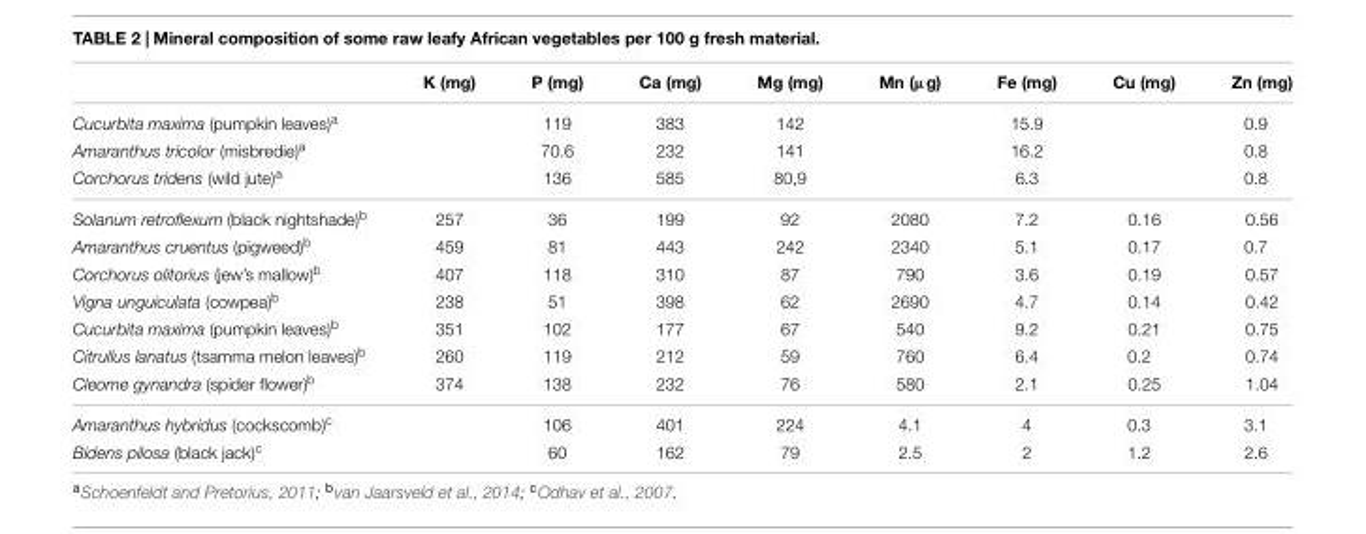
<table><thead><tr><td></td><td>K (mg)</td><td>P (mg)</td><td>Ca (mg)</td><td>Mg (mg)</td><td>Mn (µg)</td><td>Fe (mg)</td><td>Cu (mg)</td><td>Zn (mg)</td></tr></thead><tbody><tr><td>Cucurbita maxima (pumpkin leaves)<sup>a</sup></td><td></td><td>119</td><td>383</td><td>142</td><td></td><td>15.9</td><td></td><td>0.9</td></tr><tr><td>Amaranthus tricolor (misbredie)<sup>a</sup></td><td></td><td>70.6</td><td>232</td><td>141</td><td></td><td>16.2</td><td></td><td>0.8</td></tr><tr><td>Corchorus tridens (wild jute)<sup>a</sup></td><td></td><td>136</td><td>585</td><td>80,9</td><td></td><td>6.3</td><td></td><td>0.8</td></tr><tr><td>Solanum retroflexum (black nightshade)<sup>b</sup></td><td>257</td><td>36</td><td>199</td><td>92</td><td>2080</td><td>7.2</td><td>0.16</td><td>0.56</td></tr><tr><td>Amaranthus cruentus (pigweed)<sup>b</sup></td><td>459</td><td>81</td><td>443</td><td>242</td><td>2340</td><td>5.1</td><td>0.17</td><td>0.7</td></tr><tr><td>Corchorus olitorius (jew’s mallow)<sup>b</sup></td><td>407</td><td>118</td><td>310</td><td>87</td><td>790</td><td>3.6</td><td>0.19</td><td>0.57</td></tr><tr><td>Vigna unguiculata (cowpea)<sup>b</sup></td><td>238</td><td>51</td><td>398</td><td>62</td><td>2690</td><td>4.7</td><td>0.14</td><td>0.42</td></tr><tr><td>Cucurbita maxima (pumpkin leaves)<sup>b</sup></td><td>351</td><td>102</td><td>177</td><td>67</td><td>540</td><td>9.2</td><td>0.21</td><td>0.75</td></tr><tr><td>Citrullus lanatus (tsamma melon leaves)<sup>b</sup></td><td>260</td><td>119</td><td>212</td><td>59</td><td>760</td><td>6.4</td><td>0.2</td><td>0.74</td></tr><tr><td>Cleome gynandra (spider flower)<sup>b</sup></td><td>374</td><td>138</td><td>232</td><td>76</td><td>580</td><td>2.1</td><td>0.25</td><td>1.04</td></tr><tr><td>Amaranthus hybridus (cockscomb)<sup>c</sup></td><td></td><td>106</td><td>401</td><td>224</td><td>4.1</td><td>4</td><td>0.3</td><td>3.1</td></tr><tr><td>Bidens pilosa (black jack)<sup>c</sup></td><td></td><td>60</td><td>162</td><td>79</td><td>2.5</td><td>2</td><td>1.2</td><td>2.6</td></tr></tbody></table>